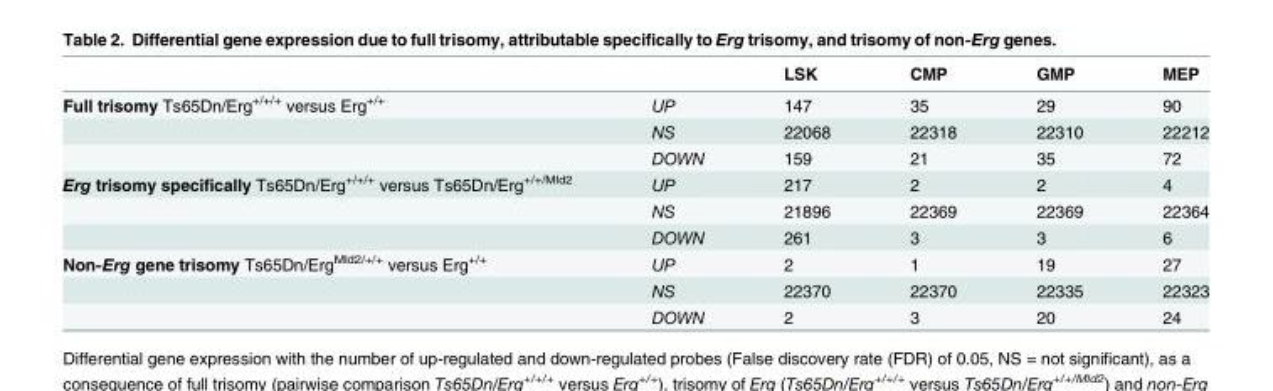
<table><thead><tr><td></td><td></td><td>LSK</td><td>CMP</td><td>GMP</td><td>MEP</td></tr></thead><tbody><tr><td rowspan="3">Full trisomy Ts65Dn/Erg<sup>+/+/+</sup> versus Erg<sup>+/+</sup></td><td>UP</td><td>147</td><td>35</td><td>29</td><td>90</td></tr><tr><td>NS</td><td>22068</td><td>22318</td><td>22310</td><td>22212</td></tr><tr><td>DOWN</td><td>159</td><td>21</td><td>35</td><td>72</td></tr><tr><td rowspan="3">Erg trisomy specifically Ts65Dn/Erg<sup>+/+/+</sup> versus Ts65Dn/Erg<sup>+/+/Mld2</sup></td><td>UP</td><td>217</td><td>2</td><td>2</td><td>4</td></tr><tr><td>NS</td><td>21896</td><td>22369</td><td>22369</td><td>22364</td></tr><tr><td>DOWN</td><td>261</td><td>3</td><td>3</td><td>6</td></tr><tr><td rowspan="3">Non-Erg gene trisomy Ts65Dn/Erg<sup>Mld2/+/+</sup> versus Erg<sup>+/+</sup></td><td>UP</td><td>2</td><td>1</td><td>19</td><td>27</td></tr><tr><td>NS</td><td>22370</td><td>22370</td><td>22335</td><td>22323</td></tr><tr><td>DOWN</td><td>2</td><td>3</td><td>20</td><td>24</td></tr></tbody></table>